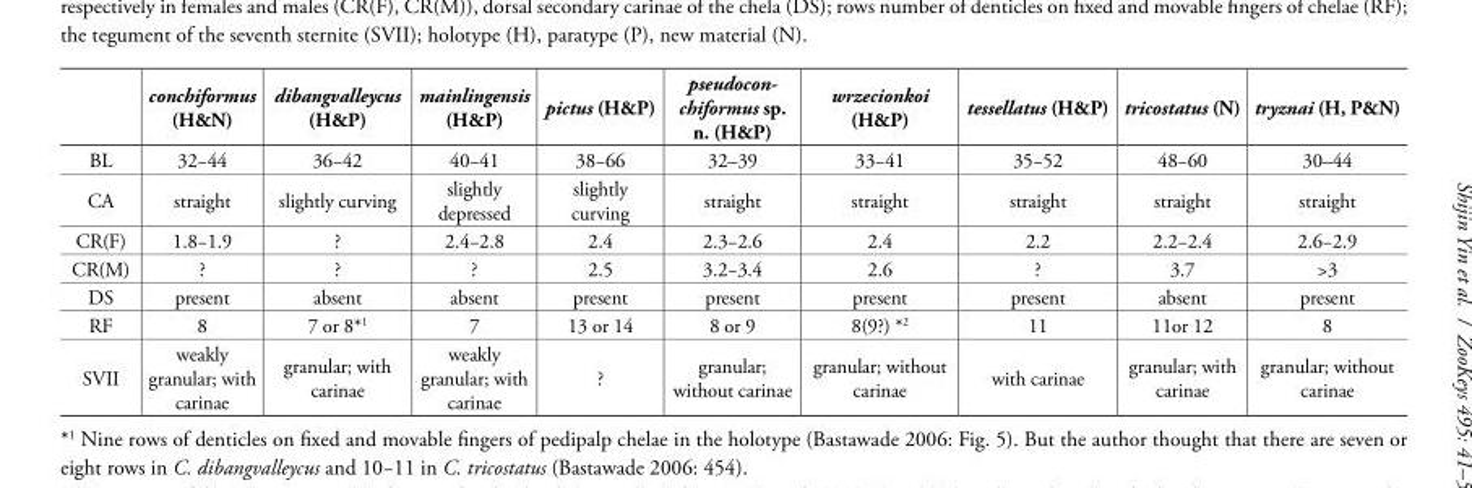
<table><thead><tr><td></td><td>conchiformus (H&amp;N)</td><td>dibangvalleycus (H&amp;P)</td><td>mainlingensis (H&amp;P)</td><td>pictus (H&amp;P)</td><td>pseudocon chiformus sp. n. (H&amp;P)</td><td>wrzecionkoi (H&amp;P)</td><td>tessellatus (H&amp;P)</td><td>tricostatus (N)</td><td>tryznai (H, P&amp;N)</td></tr></thead><tbody><tr><td>BL</td><td>32−44</td><td>36−42</td><td>40−41</td><td>38−66</td><td>32–39</td><td>33−41</td><td>35−52</td><td>48−60</td><td>30–44</td></tr><tr><td>CA</td><td>straight</td><td>slightly curving</td><td>slightly depressed</td><td>slightly curving</td><td>straight</td><td>straight</td><td>straight</td><td>straight</td><td>straight</td></tr><tr><td>CR(F)</td><td>1.8−1.9</td><td>?</td><td>2.4−2.8</td><td>2.4</td><td>2.3−2.6</td><td>2.4</td><td>2.2</td><td>2.2−2.4</td><td>2.6−2.9</td></tr><tr><td>CR(M)</td><td>?</td><td>?</td><td>?</td><td>2.5</td><td>3.2−3.4</td><td>2.6</td><td>?</td><td>3.7</td><td>&gt;3</td></tr><tr><td>DS</td><td>present</td><td>absent</td><td>absent</td><td>present</td><td>present</td><td>present</td><td>present</td><td>absent</td><td>present</td></tr><tr><td>RF</td><td>8</td><td>7 or 8*<sup>1</sup></td><td>7</td><td>13 or 14</td><td>8 or 9</td><td>8(9?) *<sup>2</sup></td><td>11</td><td>11or 12</td><td>8</td></tr><tr><td>SVII</td><td>weakly granular; with carinae</td><td>granular; with carinae</td><td>weakly granular; with carinae</td><td>?</td><td>granular; without carinae</td><td>granular; without carinae</td><td>with carinae</td><td>granular; with carinae</td><td>granular; without carinae</td></tr></tbody></table>